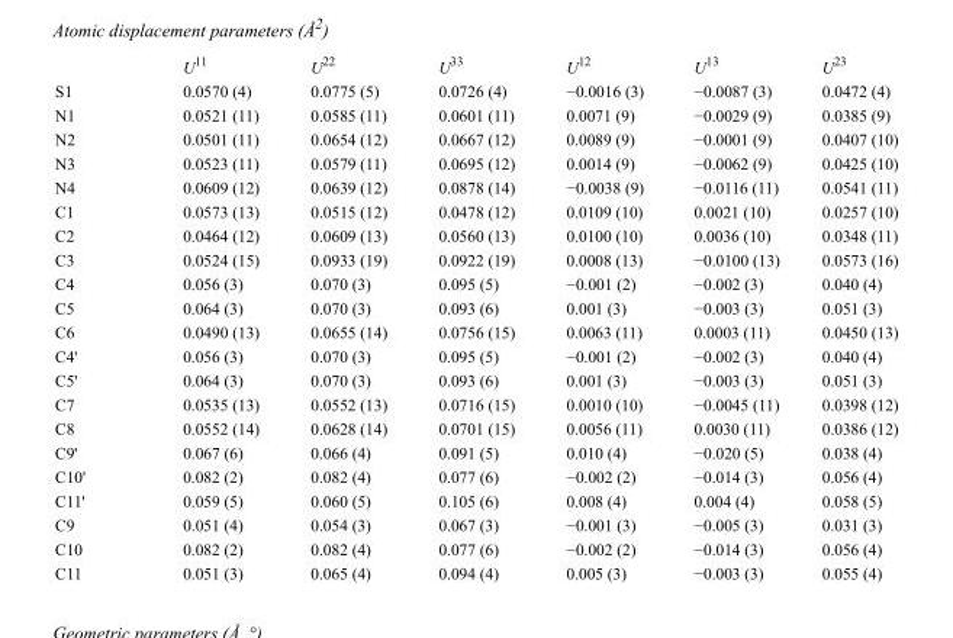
<table><thead><tr><td></td><td>U<sup>11</sup></td><td>U<sup>22</sup></td><td>U<sup>33</sup></td><td>U<sup>12</sup></td><td>U<sup>13</sup></td><td>U<sup>23</sup></td></tr></thead><tbody><tr><td>S1</td><td>0.0570 (4)</td><td>0.0775 (5)</td><td>0.0726 (4)</td><td>−0.0016 (3)</td><td>−0.0087 (3)</td><td>0.0472 (4)</td></tr><tr><td>N1</td><td>0.0521 (11)</td><td>0.0585 (11)</td><td>0.0601 (11)</td><td>0.0071 (9)</td><td>−0.0029 (9)</td><td>0.0385 (9)</td></tr><tr><td>N2</td><td>0.0501 (11)</td><td>0.0654 (12)</td><td>0.0667 (12)</td><td>0.0089 (9)</td><td>−0.0001 (9)</td><td>0.0407 (10)</td></tr><tr><td>N3</td><td>0.0523 (11)</td><td>0.0579 (11)</td><td>0.0695 (12)</td><td>0.0014 (9)</td><td>−0.0062 (9)</td><td>0.0425 (10)</td></tr><tr><td>N4</td><td>0.0609 (12)</td><td>0.0639 (12)</td><td>0.0878 (14)</td><td>−0.0038 (9)</td><td>−0.0116 (11)</td><td>0.0541 (11)</td></tr><tr><td>C1</td><td>0.0573 (13)</td><td>0.0515 (12)</td><td>0.0478 (12)</td><td>0.0109 (10)</td><td>0.0021 (10)</td><td>0.0257 (10)</td></tr><tr><td>C2</td><td>0.0464 (12)</td><td>0.0609 (13)</td><td>0.0560 (13)</td><td>0.0100 (10)</td><td>0.0036 (10)</td><td>0.0348 (11)</td></tr><tr><td>C3</td><td>0.0524 (15)</td><td>0.0933 (19)</td><td>0.0922 (19)</td><td>0.0008 (13)</td><td>−0.0100 (13)</td><td>0.0573 (16)</td></tr><tr><td>C4</td><td>0.056 (3)</td><td>0.070 (3)</td><td>0.095 (5)</td><td>−0.001 (2)</td><td>−0.002 (3)</td><td>0.040 (4)</td></tr><tr><td>C5</td><td>0.064 (3)</td><td>0.070 (3)</td><td>0.093 (6)</td><td>0.001 (3)</td><td>−0.003 (3)</td><td>0.051 (3)</td></tr><tr><td>C6</td><td>0.0490 (13)</td><td>0.0655 (14)</td><td>0.0756 (15)</td><td>0.0063 (11)</td><td>0.0003 (11)</td><td>0.0450 (13)</td></tr><tr><td>C4&#x27;</td><td>0.056 (3)</td><td>0.070 (3)</td><td>0.095 (5)</td><td>−0.001 (2)</td><td>−0.002 (3)</td><td>0.040 (4)</td></tr><tr><td>C5&#x27;</td><td>0.064 (3)</td><td>0.070 (3)</td><td>0.093 (6)</td><td>0.001 (3)</td><td>−0.003 (3)</td><td>0.051 (3)</td></tr><tr><td>C7</td><td>0.0535 (13)</td><td>0.0552 (13)</td><td>0.0716 (15)</td><td>0.0010 (10)</td><td>−0.0045 (11)</td><td>0.0398 (12)</td></tr><tr><td>C8</td><td>0.0552 (14)</td><td>0.0628 (14)</td><td>0.0701 (15)</td><td>0.0056 (11)</td><td>0.0030 (11)</td><td>0.0386 (12)</td></tr><tr><td>C9&#x27;</td><td>0.067 (6)</td><td>0.066 (4)</td><td>0.091 (5)</td><td>0.010 (4)</td><td>−0.020 (5)</td><td>0.038 (4)</td></tr><tr><td>C10&#x27;</td><td>0.082 (2)</td><td>0.082 (4)</td><td>0.077 (6)</td><td>−0.002 (2)</td><td>−0.014 (3)</td><td>0.056 (4)</td></tr><tr><td>C11&#x27;</td><td>0.059 (5)</td><td>0.060 (5)</td><td>0.105 (6)</td><td>0.008 (4)</td><td>0.004 (4)</td><td>0.058 (5)</td></tr><tr><td>C9</td><td>0.051 (4)</td><td>0.054 (3)</td><td>0.067 (3)</td><td>−0.001 (3)</td><td>−0.005 (3)</td><td>0.031 (3)</td></tr><tr><td>C10</td><td>0.082 (2)</td><td>0.082 (4)</td><td>0.077 (6)</td><td>−0.002 (2)</td><td>−0.014 (3)</td><td>0.056 (4)</td></tr><tr><td>C11</td><td>0.051 (3)</td><td>0.065 (4)</td><td>0.094 (4)</td><td>0.005 (3)</td><td>−0.003 (3)</td><td>0.055 (4)</td></tr></tbody></table>